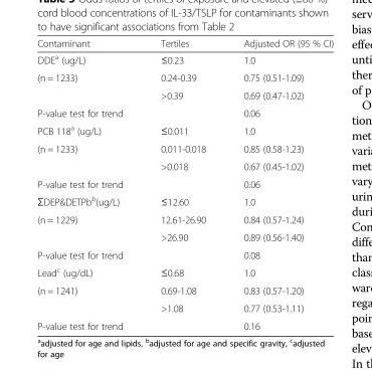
<table><thead><tr><td>Contaminant</td><td>Tertiles</td><td>Adjusted OR (95 % CI)</td></tr></thead><tbody><tr><td>DDE<sup>a</sup> (ug/L)</td><td>≤0.23</td><td>1.0</td></tr><tr><td rowspan="2">(n = 1233)</td><td>0.24-0.39</td><td>0.75 (0.51-1.09)</td></tr><tr><td>&gt;0.39</td><td>0.69 (0.47-1.02)</td></tr><tr><td>P-value test for trend</td><td></td><td>0.06</td></tr><tr><td>PCB 118<sup>a</sup> (ug/L)</td><td>≤0.011</td><td>1.0</td></tr><tr><td rowspan="2">(n = 1233)</td><td>0.011-0.018</td><td>0.85 (0.58-1.23)</td></tr><tr><td>&gt;0.018</td><td>0.67 (0.45-1.02)</td></tr><tr><td>P-value test for trend</td><td></td><td>0.06</td></tr><tr><td>ƩDEP&amp;DETPb<sup>b</sup>(ug/L)</td><td>≤12.60</td><td>1.0</td></tr><tr><td rowspan="2">(n = 1229)</td><td>12.61-26.90</td><td>0.84 (0.57-1.24)</td></tr><tr><td>&gt;26.90</td><td>0.89 (0.56-1.40)</td></tr><tr><td>P-value test for trend</td><td></td><td>0.08</td></tr><tr><td>Lead<sup>c</sup> (ug/dL)</td><td>≤0.68</td><td>1.0</td></tr><tr><td rowspan="2">(n = 1241)</td><td>0.69-1.08</td><td>0.83 (0.57-1.20)</td></tr><tr><td>&gt;1.08</td><td>0.77 (0.53-1.11)</td></tr><tr><td>P-value test for trend</td><td></td><td>0.16</td></tr></tbody></table>